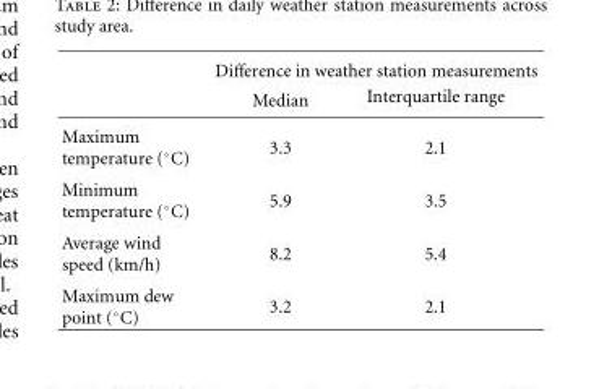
<table><thead><tr><td rowspan="2"></td><td colspan="2">Difference in weather station measurements</td></tr><tr><td>Median</td><td>Interquartile range</td></tr></thead><tbody><tr><td>Maximum temperature (◦C)</td><td>3.3</td><td>2.1</td></tr><tr><td>Minimum temperature (◦C)</td><td>5.9</td><td>3.5</td></tr><tr><td>Average wind speed (km/h)</td><td>8.2</td><td>5.4</td></tr><tr><td>Maximum dew point (◦C)</td><td>3.2</td><td>2.1</td></tr></tbody></table>